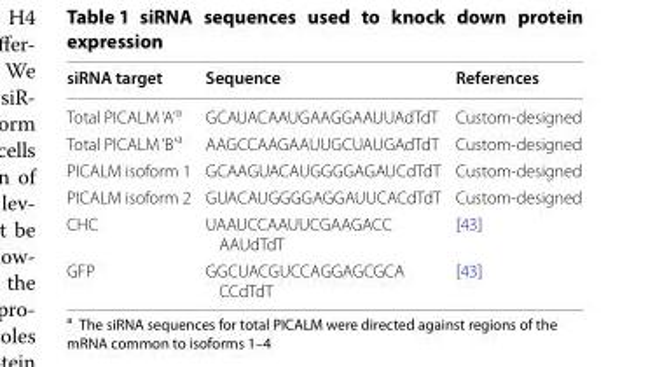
<table><thead><tr><td>siRNA target</td><td>Sequence</td><td>References</td></tr></thead><tbody><tr><td>Total PICALM ‘A’<sup>a</sup></td><td>GCAUACAAUGAAGGAAUUAdTdT</td><td>Custom-designed</td></tr><tr><td>Total PICALM ‘B’<sup>a</sup></td><td>AAGCCAAGAAUUGCUAUGAdTdT</td><td>Custom-designed</td></tr><tr><td>PICALM isoform 1</td><td>GCAAGUACAUGGGGAGAUCdTdT</td><td>Custom-designed</td></tr><tr><td>PICALM isoform 2</td><td>GUACAUGGGGAGGAUUCACdTdT</td><td>Custom-designed</td></tr><tr><td>CHC</td><td>UAAUCCAAUUCGAAGACC AAUdTdT</td><td>[43]</td></tr><tr><td>GFP</td><td>GGCUACGUCCAGGAGCGCA CCdTdT</td><td>[43]</td></tr></tbody></table>